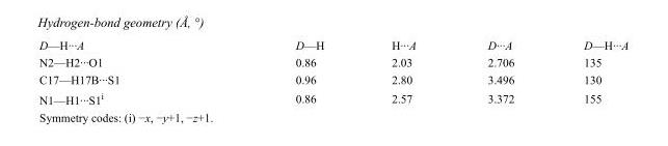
<table><tbody><tr><td>D—H···A</td><td>D—H</td><td>H···A</td><td>D···A</td><td>D—H···A</td></tr><tr><td>N2—H2···O1</td><td>0.86</td><td>2.03</td><td>2.706</td><td>135</td></tr><tr><td>C17—H17B···S1</td><td>0.96</td><td>2.80</td><td>3.496</td><td>130</td></tr><tr><td>N1—H1···S1<sup>i</sup></td><td>0.86</td><td>2.57</td><td>3.372</td><td>155</td></tr></tbody></table>